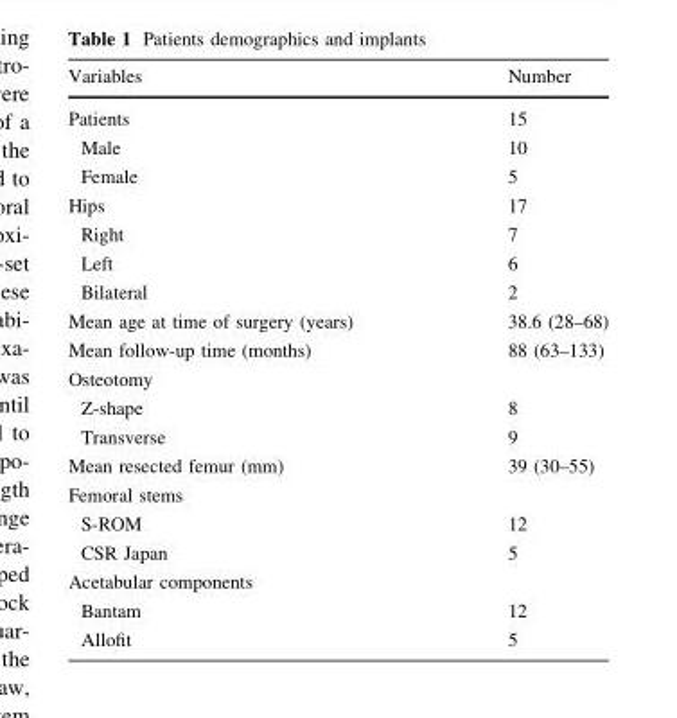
<table><thead><tr><td>Variables</td><td>Number</td></tr></thead><tbody><tr><td>Patients</td><td>15</td></tr><tr><td>Male</td><td>10</td></tr><tr><td>Female</td><td>5</td></tr><tr><td>Hips</td><td>17</td></tr><tr><td>Right</td><td>7</td></tr><tr><td>Left</td><td>6</td></tr><tr><td>Bilateral</td><td>2</td></tr><tr><td>Mean age at time of surgery (years)</td><td>38.6 (28–68)</td></tr><tr><td>Mean follow-up time (months)</td><td>88 (63–133)</td></tr><tr><td colspan="2">Osteotomy</td></tr><tr><td>Z-shape</td><td>8</td></tr><tr><td>Transverse</td><td>9</td></tr><tr><td>Mean resected femur (mm)</td><td>39 (30–55)</td></tr><tr><td colspan="2">Femoral stems</td></tr><tr><td>S-ROM</td><td>12</td></tr><tr><td>CSR Japan</td><td>5</td></tr><tr><td colspan="2">Acetabular components</td></tr><tr><td>Bantam</td><td>12</td></tr><tr><td>Allofit</td><td>5</td></tr></tbody></table>